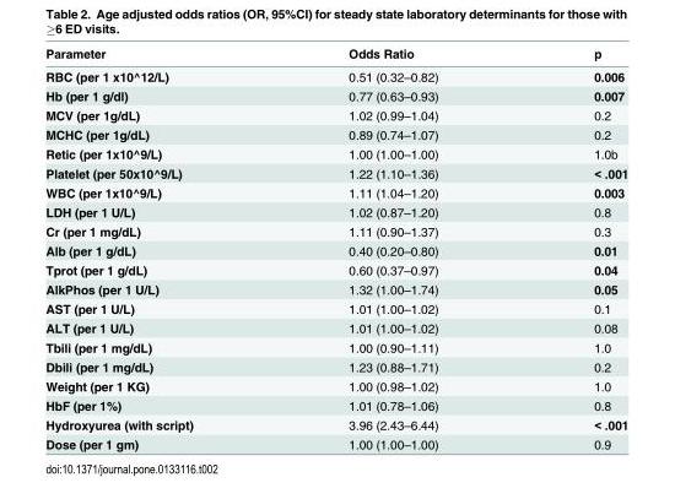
<table><thead><tr><td>Parameter</td><td>Odds Ratio</td><td>p</td></tr></thead><tbody><tr><td>RBC (per 1 x10^12/L)</td><td>0.51 (0.32–0.82)</td><td>0.006</td></tr><tr><td>Hb (per 1 g/dl)</td><td>0.77 (0.63–0.93)</td><td>0.007</td></tr><tr><td>MCV (per 1g/dL)</td><td>1.02 (0.99–1.04)</td><td>0.2</td></tr><tr><td>MCHC (per 1g/dL)</td><td>0.89 (0.74–1.07)</td><td>0.2</td></tr><tr><td>Retic (per 1x10^9/L)</td><td>1.00 (1.00–1.00)</td><td>1.0b</td></tr><tr><td>Platelet (per 50x10^9/L)</td><td>1.22 (1.10–1.36)</td><td>&lt; .001</td></tr><tr><td>WBC (per 1x10^9/L)</td><td>1.11 (1.04–1.20)</td><td>0.003</td></tr><tr><td>LDH (per 1 U/L)</td><td>1.02 (0.87–1.20)</td><td>0.8</td></tr><tr><td>Cr (per 1 mg/dL)</td><td>1.11 (0.90–1.37)</td><td>0.3</td></tr><tr><td>Alb (per 1 g/dL)</td><td>0.40 (0.20–0.80)</td><td>0.01</td></tr><tr><td>Tprot (per 1 g/dL)</td><td>0.60 (0.37–0.97)</td><td>0.04</td></tr><tr><td>AlkPhos (per 1 U/L)</td><td>1.32 (1.00–1.74)</td><td>0.05</td></tr><tr><td>AST (per 1 U/L)</td><td>1.01 (1.00–1.02)</td><td>0.1</td></tr><tr><td>ALT (per 1 U/L)</td><td>1.01 (1.00–1.02)</td><td>0.08</td></tr><tr><td>Tbili (per 1 mg/dL)</td><td>1.00 (0.90–1.11)</td><td>1.0</td></tr><tr><td>Dbili (per 1 mg/dL)</td><td>1.23 (0.88–1.71)</td><td>0.2</td></tr><tr><td>Weight (per 1 KG)</td><td>1.00 (0.98–1.02)</td><td>1.0</td></tr><tr><td>HbF (per 1%)</td><td>1.01 (0.78–1.06)</td><td>0.8</td></tr><tr><td>Hydroxyurea (with script)</td><td>3.96 (2.43–6.44)</td><td>&lt; .001</td></tr><tr><td>Dose (per 1 gm)</td><td>1.00 (1.00–1.00)</td><td>0.9</td></tr></tbody></table>